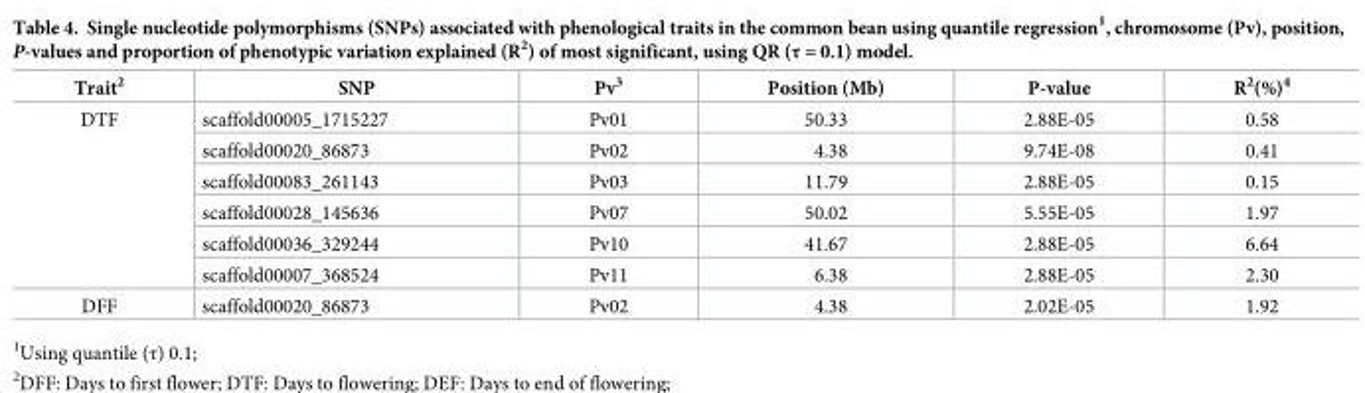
<table><thead><tr><td>Trait<sup>2</sup></td><td>SNP</td><td>Pv<sup>3</sup></td><td>Position (Mb)</td><td>P-value</td><td>R<sup>2</sup>(%)<sup>4</sup></td></tr></thead><tbody><tr><td rowspan="6">DTF</td><td>scaffold00005_1715227</td><td>Pv01</td><td>50.33</td><td>2.88E-05</td><td>0.58</td></tr><tr><td>scaffold00020_86873</td><td>Pv02</td><td>4.38</td><td>9.74E-08</td><td>0.41</td></tr><tr><td>scaffold00083_261143</td><td>Pv03</td><td>11.79</td><td>2.88E-05</td><td>0.15</td></tr><tr><td>scaffold00028_145636</td><td>Pv07</td><td>50.02</td><td>5.55E-05</td><td>1.97</td></tr><tr><td>scaffold00036_329244</td><td>Pv10</td><td>41.67</td><td>2.88E-05</td><td>6.64</td></tr><tr><td>scaffold00007_368524</td><td>Pv11</td><td>6.38</td><td>2.88E-05</td><td>2.30</td></tr><tr><td>DFF</td><td>scaffold00020_86873</td><td>Pv02</td><td>4.38</td><td>2.02E-05</td><td>1.92</td></tr></tbody></table>